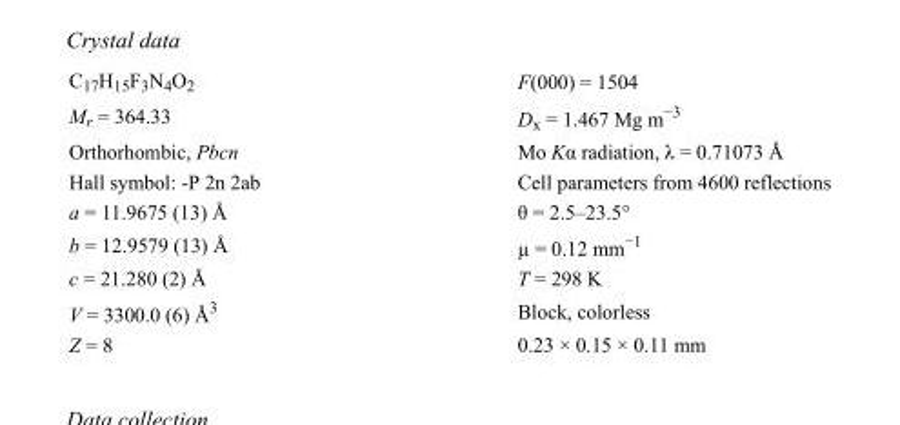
<table><tbody><tr><td>C<sub>17</sub>H<sub>15</sub>F<sub>3</sub>N<sub>4</sub>O<sub>2</sub></td><td>F(000) = 1504</td></tr><tr><td>M<sub>r</sub> = 364.33</td><td>D<sub>x</sub> = 1.467 Mg m<sup>−3</sup></td></tr><tr><td>Orthorhombic, Pbcn</td><td>Mo Kα radiation, λ = 0.71073 Å</td></tr><tr><td>Hall symbol: -P 2n 2ab</td><td>Cell parameters from 4600 reflections</td></tr><tr><td>a = 11.9675 (13) Å</td><td>θ = 2.5–23.5°</td></tr><tr><td>b = 12.9579 (13) Å</td><td>µ = 0.12 mm<sup>−1</sup></td></tr><tr><td>c = 21.280 (2) Å</td><td>T = 298 K</td></tr><tr><td>V = 3300.0 (6) Å<sup>3</sup></td><td>Block, colorless</td></tr><tr><td>Z = 8</td><td>0.23 × 0.15 × 0.11 mm</td></tr></tbody></table>